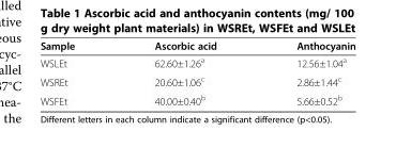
<table><thead><tr><td>Sample</td><td>Ascorbic acid</td><td>Anthocyanin</td></tr></thead><tbody><tr><td>WSLEt</td><td>62.60±1.26<sup>a</sup></td><td>12.56±1.04<sup>a</sup></td></tr><tr><td>WSREt</td><td>20.60±1.06<sup>c</sup></td><td>2.86±1.44<sup>c</sup></td></tr><tr><td>WSFEt</td><td>40.00±0.40<sup>b</sup></td><td>5.66±0.52<sup>b</sup></td></tr></tbody></table>